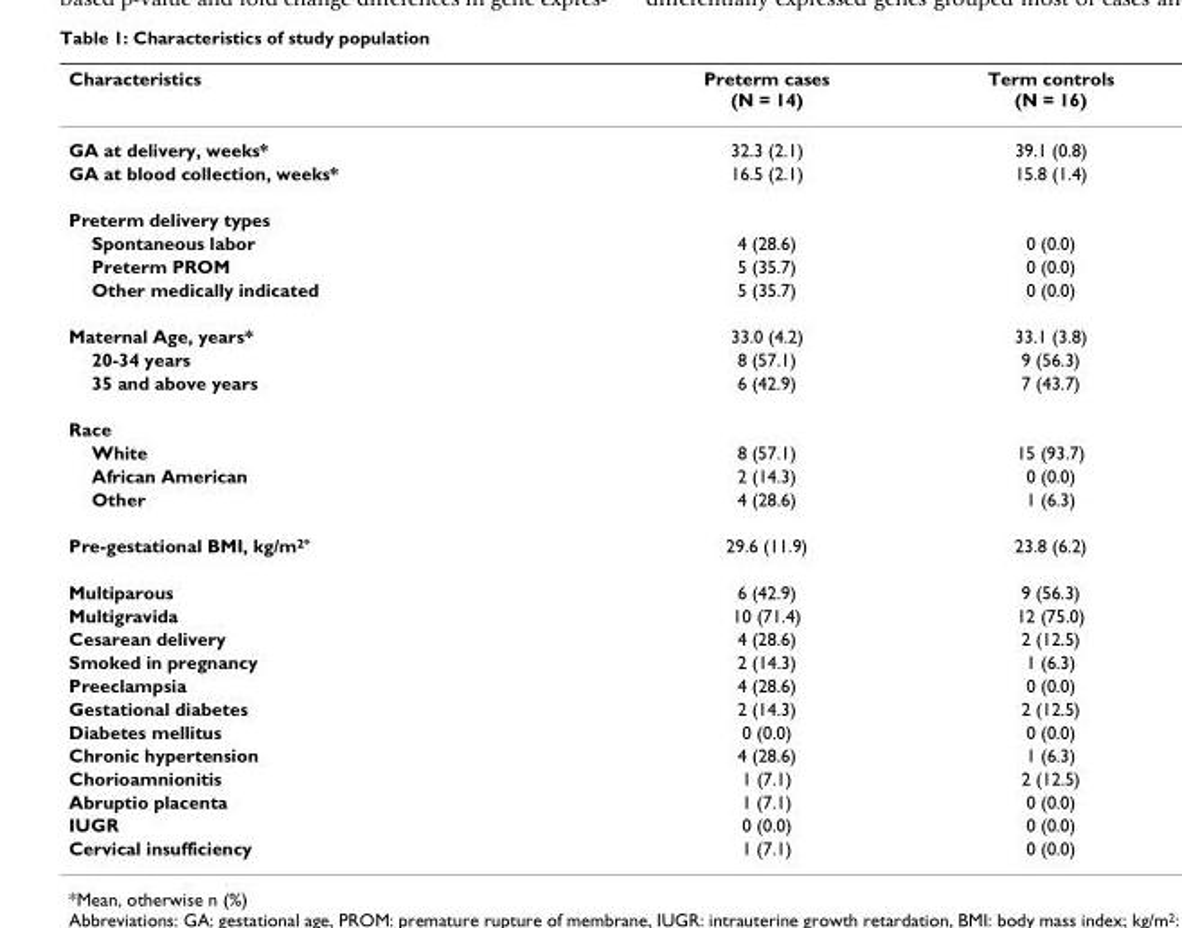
<table><thead><tr><td>Characteristics</td><td>Preterm cases (N = 14)</td><td>Term controls (N = 16)</td></tr></thead><tbody><tr><td>GA at delivery, weeks*</td><td>32.3 (2.1)</td><td>39.1 (0.8)</td></tr><tr><td>GA at blood collection, weeks*</td><td>16.5 (2.1)</td><td>15.8 (1.4)</td></tr><tr><td colspan="3">Preterm delivery types</td></tr><tr><td>Spontaneous labor</td><td>4 (28.6)</td><td>0 (0.0)</td></tr><tr><td>Preterm PROM</td><td>5 (35.7)</td><td>0 (0.0)</td></tr><tr><td>Other medically indicated</td><td>5 (35.7)</td><td>0 (0.0)</td></tr><tr><td>Maternal Age, years*</td><td>33.0 (4.2)</td><td>33.1 (3.8)</td></tr><tr><td>20-34 years</td><td>8 (57.1)</td><td>9 (56.3)</td></tr><tr><td>35 and above years</td><td>6 (42.9)</td><td>7 (43.7)</td></tr><tr><td colspan="3">Race</td></tr><tr><td>White</td><td>8 (57.1)</td><td>15 (93.7)</td></tr><tr><td>African American</td><td>2 (14.3)</td><td>0 (0.0)</td></tr><tr><td>Other</td><td>4 (28.6)</td><td>1 (6.3)</td></tr><tr><td>Pre-gestational BMI, kg/m<sup>2*</sup></td><td>29.6 (11.9)</td><td>23.8 (6.2)</td></tr><tr><td>Multiparous</td><td>6 (42.9)</td><td>9 (56.3)</td></tr><tr><td>Multigravida</td><td>10 (71.4)</td><td>12 (75.0)</td></tr><tr><td>Cesarean delivery</td><td>4 (28.6)</td><td>2 (12.5)</td></tr><tr><td>Smoked in pregnancy</td><td>2 (14.3)</td><td>1 (6.3)</td></tr><tr><td>Preeclampsia</td><td>4 (28.6)</td><td>0 (0.0)</td></tr><tr><td>Gestational diabetes</td><td>2 (14.3)</td><td>2 (12.5)</td></tr><tr><td>Diabetes mellitus</td><td>0 (0.0)</td><td>0 (0.0)</td></tr><tr><td>Chronic hypertension</td><td>4 (28.6)</td><td>1 (6.3)</td></tr><tr><td>Chorioamnionitis</td><td>1 (7.1)</td><td>2 (12.5)</td></tr><tr><td>Abruptio placenta</td><td>1 (7.1)</td><td>0 (0.0)</td></tr><tr><td>IUGR</td><td>0 (0.0)</td><td>0 (0.0)</td></tr><tr><td>Cervical insufficiency</td><td>1 (7.1)</td><td>0 (0.0)</td></tr></tbody></table>